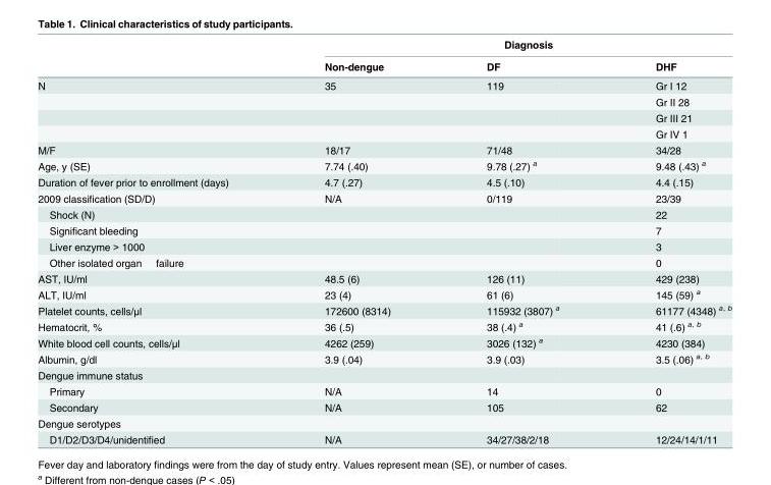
<table><thead><tr><td rowspan="2"></td><td colspan="3">Diagnosis</td></tr><tr><td>Non-dengue</td><td>DF</td><td>DHF</td></tr></thead><tbody><tr><td rowspan="4">N</td><td>35</td><td>119</td><td>Gr I 12</td></tr><tr><td></td><td></td><td>Gr II 28</td></tr><tr><td></td><td></td><td>Gr III 21</td></tr><tr><td></td><td></td><td>Gr IV 1</td></tr><tr><td>M/F</td><td>18/17</td><td>71/48</td><td>34/28</td></tr><tr><td>Age, y (SE)</td><td>7.74 (.40)</td><td>9.78 (.27) <sup>a</sup></td><td>9.48 (.43) <sup>a</sup></td></tr><tr><td>Duration of fever prior to enrollment (days)</td><td>4.7 (.27)</td><td>4.5 (.10)</td><td>4.4 (.15)</td></tr><tr><td>2009 classification (SD/D)</td><td>N/A</td><td>0/119</td><td>23/39</td></tr><tr><td>Shock (N)</td><td></td><td></td><td>22</td></tr><tr><td>Significant bleeding</td><td></td><td></td><td>7</td></tr><tr><td>Liver enzyme &gt; 1000</td><td></td><td></td><td>3</td></tr><tr><td>Other isolated organ failure</td><td></td><td></td><td>0</td></tr><tr><td>AST, IU/ml</td><td>48.5 (6)</td><td>126 (11)</td><td>429 (238)</td></tr><tr><td>ALT, IU/ml</td><td>23 (4)</td><td>61 (6)</td><td>145 (59) <sup>a</sup></td></tr><tr><td>Platelet counts, cells/μl</td><td>172600 (8314)</td><td>115932 (3807) <sup>a</sup></td><td>61177 (4348) <sup>a, b</sup></td></tr><tr><td>Hematocrit, %</td><td>36 (.5)</td><td>38 (.4) <sup>a</sup></td><td>41 (.6) <sup>a, b</sup></td></tr><tr><td>White blood cell counts, cells/μl</td><td>4262 (259)</td><td>3026 (132) <sup>a</sup></td><td>4230 (384)</td></tr><tr><td>Albumin, g/dl</td><td>3.9 (.04)</td><td>3.9 (.03)</td><td>3.5 (.06) <sup>a, b</sup></td></tr><tr><td colspan="4">Dengue immune status</td></tr><tr><td>Primary</td><td>N/A</td><td>14</td><td>0</td></tr><tr><td>Secondary</td><td>N/A</td><td>105</td><td>62</td></tr><tr><td colspan="4">Dengue serotypes</td></tr><tr><td>D1/D2/D3/D4/unidentified</td><td>N/A</td><td>34/27/38/2/18</td><td>12/24/14/1/11</td></tr></tbody></table>